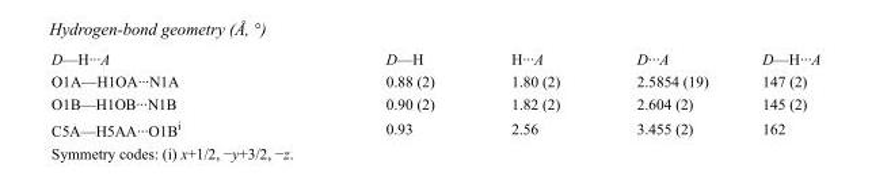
<table><tbody><tr><td>D—H···A</td><td>D—H</td><td>H···A</td><td>D···A</td><td>D—H···A</td></tr><tr><td>O1A—H1OA···N1A</td><td>0.88 (2)</td><td>1.80 (2)</td><td>2.5854 (19)</td><td>147 (2)</td></tr><tr><td>O1B—H1OB···N1B</td><td>0.90 (2)</td><td>1.82 (2)</td><td>2.604 (2)</td><td>145 (2)</td></tr><tr><td>C5A—H5AA···O1B<sup>i</sup></td><td>0.93</td><td>2.56</td><td>3.455 (2)</td><td>162</td></tr></tbody></table>